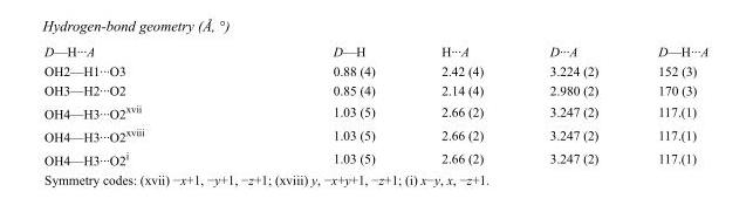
<table><tbody><tr><td>D—H···A</td><td>D—H</td><td>H···A</td><td>D···A</td><td>D—H···A</td></tr><tr><td>OH2—H1···O3</td><td>0.88 (4)</td><td>2.42 (4)</td><td>3.224 (2)</td><td>152 (3)</td></tr><tr><td>OH3—H2···O2</td><td>0.85 (4)</td><td>2.14 (4)</td><td>2.980 (2)</td><td>170 (3)</td></tr><tr><td>OH4—H3···O2<sup>xvii</sup></td><td>1.03 (5)</td><td>2.66 (2)</td><td>3.247 (2)</td><td>117.(1)</td></tr><tr><td>OH4—H3···O2<sup>xviii</sup></td><td>1.03 (5)</td><td>2.66 (2)</td><td>3.247 (2)</td><td>117.(1)</td></tr><tr><td>OH4—H3···O2<sup>i</sup></td><td>1.03 (5)</td><td>2.66 (2)</td><td>3.247 (2)</td><td>117.(1)</td></tr></tbody></table>